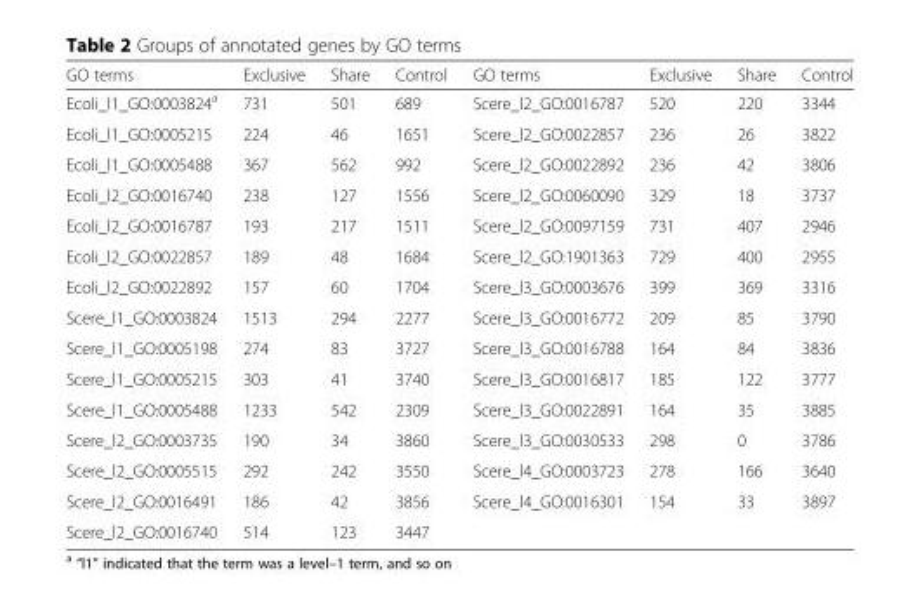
<table><thead><tr><td>GO terms</td><td>Exclusive</td><td>Share</td><td>Control</td><td>GO terms</td><td>Exclusive</td><td>Share</td><td>Control</td></tr></thead><tbody><tr><td>Ecoli_l1_GO:0003824<sup>a</sup></td><td>731</td><td>501</td><td>689</td><td>Scere_l2_GO:0016787</td><td>520</td><td>220</td><td>3344</td></tr><tr><td>Ecoli_l1_GO:0005215</td><td>224</td><td>46</td><td>1651</td><td>Scere_l2_GO:0022857</td><td>236</td><td>26</td><td>3822</td></tr><tr><td>Ecoli_l1_GO:0005488</td><td>367</td><td>562</td><td>992</td><td>Scere_l2_GO:0022892</td><td>236</td><td>42</td><td>3806</td></tr><tr><td>Ecoli_l2_GO:0016740</td><td>238</td><td>127</td><td>1556</td><td>Scere_l2_GO:0060090</td><td>329</td><td>18</td><td>3737</td></tr><tr><td>Ecoli_l2_GO:0016787</td><td>193</td><td>217</td><td>1511</td><td>Scere_l2_GO:0097159</td><td>731</td><td>407</td><td>2946</td></tr><tr><td>Ecoli_l2_GO:0022857</td><td>189</td><td>48</td><td>1684</td><td>Scere_l2_GO:1901363</td><td>729</td><td>400</td><td>2955</td></tr><tr><td>Ecoli_l2_GO:0022892</td><td>157</td><td>60</td><td>1704</td><td>Scere_l3_GO:0003676</td><td>399</td><td>369</td><td>3316</td></tr><tr><td>Scere_l1_GO:0003824</td><td>1513</td><td>294</td><td>2277</td><td>Scere_l3_GO:0016772</td><td>209</td><td>85</td><td>3790</td></tr><tr><td>Scere_l1_GO:0005198</td><td>274</td><td>83</td><td>3727</td><td>Scere_l3_GO:0016788</td><td>164</td><td>84</td><td>3836</td></tr><tr><td>Scere_l1_GO:0005215</td><td>303</td><td>41</td><td>3740</td><td>Scere_l3_GO:0016817</td><td>185</td><td>122</td><td>3777</td></tr><tr><td>Scere_l1_GO:0005488</td><td>1233</td><td>542</td><td>2309</td><td>Scere_l3_GO:0022891</td><td>164</td><td>35</td><td>3885</td></tr><tr><td>Scere_l2_GO:0003735</td><td>190</td><td>34</td><td>3860</td><td>Scere_l3_GO:0030533</td><td>298</td><td>0</td><td>3786</td></tr><tr><td>Scere_l2_GO:0005515</td><td>292</td><td>242</td><td>3550</td><td>Scere_l4_GO:0003723</td><td>278</td><td>166</td><td>3640</td></tr><tr><td>Scere_l2_GO:0016491</td><td>186</td><td>42</td><td>3856</td><td>Scere_l4_GO:0016301</td><td>154</td><td>33</td><td>3897</td></tr><tr><td>Scere_l2_GO:0016740</td><td>514</td><td>123</td><td>3447</td><td></td><td></td><td></td><td></td></tr></tbody></table>